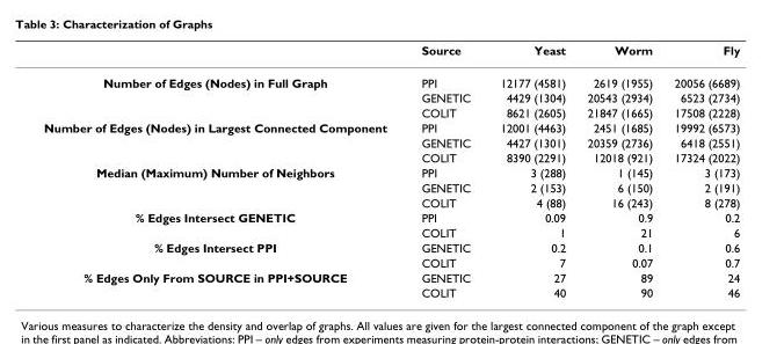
<table><thead><tr><td></td><td>Source</td><td>Yeast</td><td>Worm</td><td>Fly</td></tr></thead><tbody><tr><td rowspan="3">Number of Edges (Nodes) in Full Graph</td><td>PPI</td><td>12177 (4581)</td><td>2619 (1955)</td><td>20056 (6689)</td></tr><tr><td>GENETIC</td><td>4429 (1304)</td><td>20543 (2934)</td><td>6523 (2734)</td></tr><tr><td>COLIT</td><td>8621 (2605)</td><td>21847 (1665)</td><td>17508 (2228)</td></tr><tr><td rowspan="3">Number of Edges (Nodes) in Largest Connected Component</td><td>PPI</td><td>12001 (4463)</td><td>2451 (1685)</td><td>19992 (6573)</td></tr><tr><td>GENETIC</td><td>4427 (1301)</td><td>20359 (2736)</td><td>6418 (2551)</td></tr><tr><td>COLIT</td><td>8390 (2291)</td><td>12018 (921)</td><td>17324 (2022)</td></tr><tr><td rowspan="3">Median (Maximum) Number of Neighbors</td><td>PPI</td><td>3 (288)</td><td>1 (145)</td><td>3 (173)</td></tr><tr><td>GENETIC</td><td>2 (153)</td><td>6 (150)</td><td>2 (191)</td></tr><tr><td>COLIT</td><td>4 (88)</td><td>16 (243)</td><td>8 (278)</td></tr><tr><td rowspan="2">% Edges Intersect GENETIC</td><td>PPI</td><td>0.09</td><td>0.9</td><td>0.2</td></tr><tr><td>COLIT</td><td>1</td><td>21</td><td>6</td></tr><tr><td rowspan="2">% Edges Intersect PPI</td><td>GENETIC</td><td>0.2</td><td>0.1</td><td>0.6</td></tr><tr><td>COLIT</td><td>7</td><td>0.07</td><td>0.7</td></tr><tr><td rowspan="2">% Edges Only From SOURCE in PPI+SOURCE</td><td>GENETIC</td><td>27</td><td>89</td><td>24</td></tr><tr><td>COLIT</td><td>40</td><td>90</td><td>46</td></tr></tbody></table>